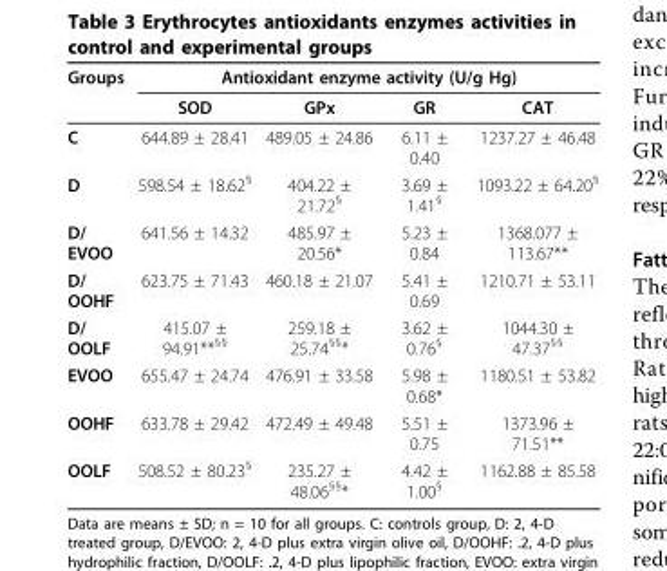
<table><thead><tr><td rowspan="2">Groups</td><td colspan="4">Antioxidant enzyme activity (U/g Hg)</td></tr><tr><td>SOD</td><td>GPx</td><td>GR</td><td>CAT</td></tr></thead><tbody><tr><td>C</td><td>644.89 ± 28.41</td><td>489.05 ± 24.86</td><td>6.11 ± 0.40</td><td>1237.27 ± 46.48</td></tr><tr><td>D</td><td>598.54 ± 18.62<sup>§</sup></td><td>404.22 ± 21.72<sup>§</sup></td><td>3.69 ± 1.41<sup>§</sup></td><td>1093.22 ± 64.20<sup>§</sup></td></tr><tr><td>D/ EVOO</td><td>641.56 ± 14.32</td><td>485.97 ± 20.56*</td><td>5.23 ± 0.84</td><td>1368.077 ± 113.67**</td></tr><tr><td>D/ OOHF</td><td>623.75 ± 71.43</td><td>460.18 ± 21.07</td><td>5.41 ± 0.69</td><td>1210.71 ± 53.11</td></tr><tr><td>D/ OOLF</td><td>415.07 ± 94.91**<sup>§§</sup></td><td>259.18 ± 25.74<sup>§§</sup>*</td><td>3.62 ± 0.76<sup>§</sup></td><td>1044.30 ± 47.37<sup>§§</sup></td></tr><tr><td>EVOO</td><td>655.47 ± 24.74</td><td>476.91 ± 33.58</td><td>5.98 ± 0.68*</td><td>1180.51 ± 53.82</td></tr><tr><td>OOHF</td><td>633.78 ± 29.42</td><td>472.49 ± 49.48</td><td>5.51 ± 0.75</td><td>1373.96 ± 71.51**</td></tr><tr><td>OOLF</td><td>508.52 ± 80.23<sup>§</sup></td><td>235.27 ± 48.06<sup>§§</sup>*</td><td>4.42 ± 1.00<sup>§</sup></td><td>1162.88 ± 85.58</td></tr></tbody></table>